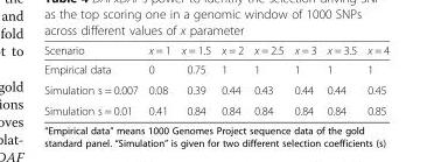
<table><thead><tr><td>Scenario</td><td>x = 1</td><td>x = 1.5</td><td>x = 2</td><td>x = 2.5</td><td>x = 3</td><td>x = 3.5</td><td>x = 4</td></tr></thead><tbody><tr><td>Empirical data</td><td>0</td><td>0.75</td><td>1</td><td>1</td><td>1</td><td>1</td><td>1</td></tr><tr><td>Simulation s = 0.007</td><td>0.08</td><td>0.39</td><td>0.44</td><td>0.43</td><td>0.44</td><td>0.44</td><td>0.45</td></tr><tr><td>Simulation s = 0.01</td><td>0.41</td><td>0.84</td><td>0.84</td><td>0.84</td><td>0.84</td><td>0.84</td><td>0.85</td></tr></tbody></table>